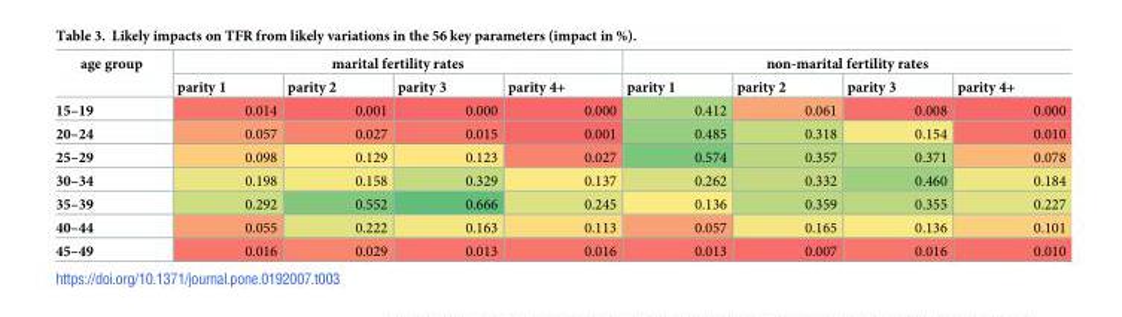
<table><thead><tr><td rowspan="2">age group</td><td colspan="4">marital fertility rates</td><td colspan="4">non-marital fertility rates</td></tr><tr><td>parity 1</td><td>parity 2</td><td>parity 3</td><td>parity 4+</td><td>parity 1</td><td>parity 2</td><td>parity 3</td><td>parity 4+</td></tr></thead><tbody><tr><td>15–19</td><td>0.014</td><td>0.001</td><td>0.000</td><td>0.000</td><td>0.412</td><td>0.061</td><td>0.008</td><td>0.000</td></tr><tr><td>20–24</td><td>0.057</td><td>0.027</td><td>0.015</td><td>0.001</td><td>0.485</td><td>0.318</td><td>0.154</td><td>0.010</td></tr><tr><td>25–29</td><td>0.098</td><td>0.129</td><td>0.123</td><td>0.027</td><td>0.574</td><td>0.357</td><td>0.371</td><td>0.078</td></tr><tr><td>30–34</td><td>0.198</td><td>0.158</td><td>0.329</td><td>0.137</td><td>0.262</td><td>0.332</td><td>0.460</td><td>0.184</td></tr><tr><td>35–39</td><td>0.292</td><td>0.552</td><td>0.666</td><td>0.245</td><td>0.136</td><td>0.359</td><td>0.355</td><td>0.227</td></tr><tr><td>40–44</td><td>0.055</td><td>0.222</td><td>0.163</td><td>0.113</td><td>0.057</td><td>0.165</td><td>0.136</td><td>0.101</td></tr><tr><td>45–49</td><td>0.016</td><td>0.029</td><td>0.013</td><td>0.016</td><td>0.013</td><td>0.007</td><td>0.016</td><td>0.010</td></tr></tbody></table>